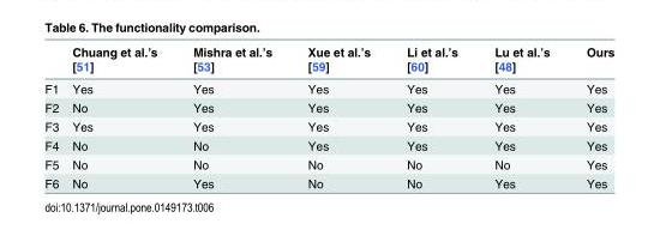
<table><thead><tr><td></td><td>Chuang et al.’s [51]</td><td>Mishra et al.’s [53]</td><td>Xue et al.’s [59]</td><td>Li et al.’s [60]</td><td>Lu et al.’s [48]</td><td>Ours</td></tr></thead><tbody><tr><td>F1</td><td>Yes</td><td>Yes</td><td>Yes</td><td>Yes</td><td>Yes</td><td>Yes</td></tr><tr><td>F2</td><td>No</td><td>Yes</td><td>Yes</td><td>Yes</td><td>Yes</td><td>Yes</td></tr><tr><td>F3</td><td>Yes</td><td>Yes</td><td>Yes</td><td>Yes</td><td>Yes</td><td>Yes</td></tr><tr><td>F4</td><td>No</td><td>No</td><td>Yes</td><td>Yes</td><td>Yes</td><td>Yes</td></tr><tr><td>F5</td><td>No</td><td>No</td><td>No</td><td>No</td><td>No</td><td>Yes</td></tr><tr><td>F6</td><td>No</td><td>Yes</td><td>No</td><td>No</td><td>Yes</td><td>Yes</td></tr></tbody></table>